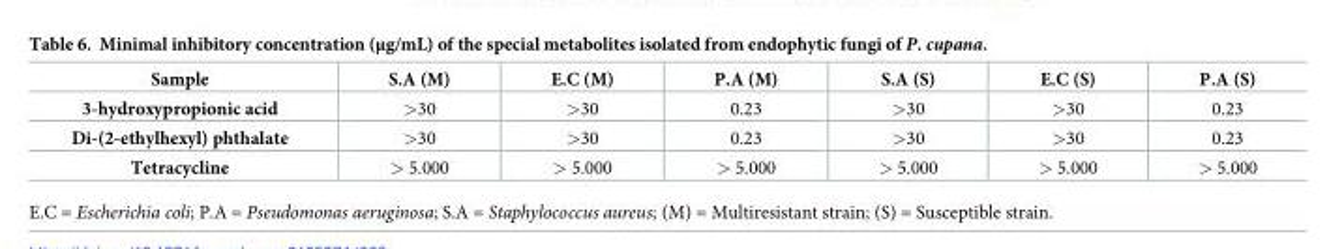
<table><thead><tr><td>Sample</td><td>S.A (M)</td><td>E.C (M)</td><td>P.A (M)</td><td>S.A (S)</td><td>E.C (S)</td><td>P.A (S)</td></tr></thead><tbody><tr><td>3-hydroxypropionic acid</td><td>&gt;30</td><td>&gt;30</td><td>0.23</td><td>&gt;30</td><td>&gt;30</td><td>0.23</td></tr><tr><td>Di-(2-ethylhexyl) phthalate</td><td>&gt;30</td><td>&gt;30</td><td>0.23</td><td>&gt;30</td><td>&gt;30</td><td>0.23</td></tr><tr><td>Tetracycline</td><td>&gt; 5.000</td><td>&gt; 5.000</td><td>&gt; 5.000</td><td>&gt; 5.000</td><td>&gt; 5.000</td><td>&gt; 5.000</td></tr></tbody></table>